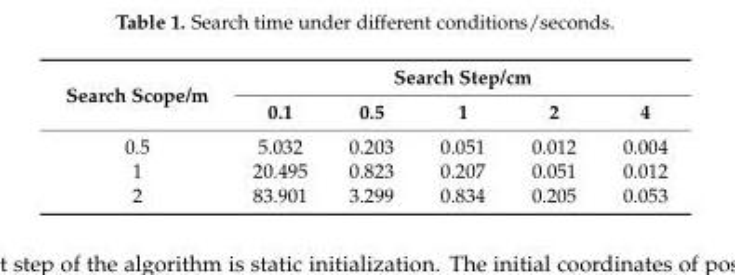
<table><thead><tr><td rowspan="2">Search Scope/m</td><td colspan="5">Search Step/cm</td></tr><tr><td>0.1</td><td>0.5</td><td>1</td><td>2</td><td>4</td></tr></thead><tbody><tr><td>0.5</td><td>5.032</td><td>0.203</td><td>0.051</td><td>0.012</td><td>0.004</td></tr><tr><td>1</td><td>20.495</td><td>0.823</td><td>0.207</td><td>0.051</td><td>0.012</td></tr><tr><td>2</td><td>83.901</td><td>3.299</td><td>0.834</td><td>0.205</td><td>0.053</td></tr></tbody></table>